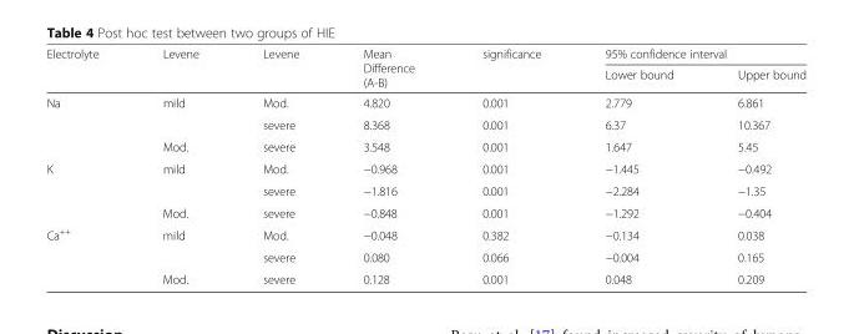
<table><thead><tr><td rowspan="2">Electrolyte</td><td rowspan="2">Levene</td><td rowspan="2">Levene</td><td rowspan="2">Mean Difference (A-B)</td><td rowspan="2">significance</td><td colspan="2">95% confidence interval</td></tr><tr><td>Lower bound</td><td>Upper bound</td></tr></thead><tbody><tr><td rowspan="3">Na</td><td rowspan="2">mild</td><td>Mod.</td><td>4.820</td><td>0.001</td><td>2.779</td><td>6.861</td></tr><tr><td>severe</td><td>8.368</td><td>0.001</td><td>6.37</td><td>10.367</td></tr><tr><td>Mod.</td><td>severe</td><td>3.548</td><td>0.001</td><td>1.647</td><td>5.45</td></tr><tr><td rowspan="3">K</td><td rowspan="2">mild</td><td>Mod.</td><td>−0.968</td><td>0.001</td><td>−1.445</td><td>−0.492</td></tr><tr><td>severe</td><td>−1.816</td><td>0.001</td><td>−2.284</td><td>−1.35</td></tr><tr><td>Mod.</td><td>severe</td><td>−0.848</td><td>0.001</td><td>−1.292</td><td>−0.404</td></tr><tr><td rowspan="3">Ca<sup>++</sup></td><td rowspan="2">mild</td><td>Mod.</td><td>−0.048</td><td>0.382</td><td>−0.134</td><td>0.038</td></tr><tr><td>severe</td><td>0.080</td><td>0.066</td><td>−0.004</td><td>0.165</td></tr><tr><td>Mod.</td><td>severe</td><td>0.128</td><td>0.001</td><td>0.048</td><td>0.209</td></tr></tbody></table>